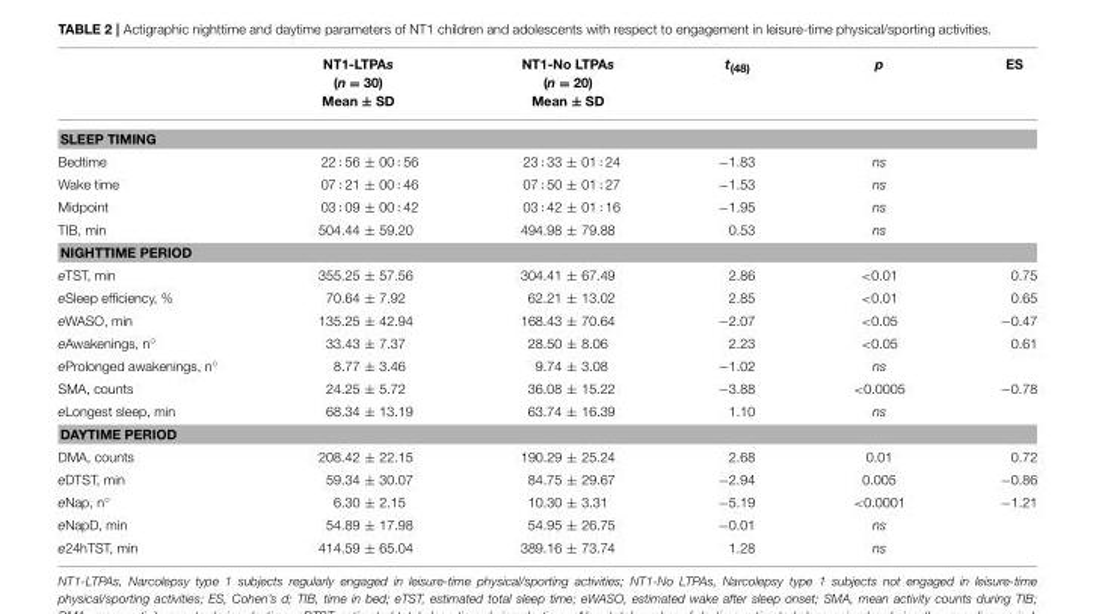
<table><thead><tr><td></td><td>NT1-LTPAs (n = 30) Mean ± SD</td><td>NT1-No LTPAs (n = 20) Mean ± SD</td><td>t<sub>(48)</sub></td><td>p</td><td>ES</td></tr></thead><tbody><tr><td colspan="6">SLEEP TIMING</td></tr><tr><td>Bedtime</td><td>22 : 56 ± 00 : 56</td><td>23 : 33 ± 01 : 24</td><td>−1.83</td><td>ns</td><td></td></tr><tr><td>Wake time</td><td>07 : 21 ± 00 : 46</td><td>07 : 50 ± 01 : 27</td><td>−1.53</td><td>ns</td><td></td></tr><tr><td>Midpoint</td><td>03 : 09 ± 00 : 42</td><td>03 : 42 ± 01 : 16</td><td>−1.95</td><td>ns</td><td></td></tr><tr><td>TIB, min</td><td>504.44 ± 59.20</td><td>494.98 ± 79.88</td><td>0.53</td><td>ns</td><td></td></tr><tr><td colspan="6">NIGHTTIME PERIOD</td></tr><tr><td>eTST, min</td><td>355.25 ± 57.56</td><td>304.41 ± 67.49</td><td>2.86</td><td>&lt;0.01</td><td>0.75</td></tr><tr><td>eSleep efficiency, %</td><td>70.64 ± 7.92</td><td>62.21 ± 13.02</td><td>2.85</td><td>&lt;0.01</td><td>0.65</td></tr><tr><td>eWASO, min</td><td>135.25 ± 42.94</td><td>168.43 ± 70.64</td><td>−2.07</td><td>&lt;0.05</td><td>−0.47</td></tr><tr><td>eAwakenings, n◦</td><td>33.43 ± 7.37</td><td>28.50 ± 8.06</td><td>2.23</td><td>&lt;0.05</td><td>0.61</td></tr><tr><td>eProlonged awakenings, n◦</td><td>8.77 ± 3.46</td><td>9.74 ± 3.08</td><td>−1.02</td><td>ns</td><td></td></tr><tr><td>SMA, counts</td><td>24.25 ± 5.72</td><td>36.08 ± 15.22</td><td>−3.88</td><td>&lt;0.0005</td><td>−0.78</td></tr><tr><td>eLongest sleep, min</td><td>68.34 ± 13.19</td><td>63.74 ± 16.39</td><td>1.10</td><td>ns</td><td></td></tr><tr><td colspan="6">DAYTIME PERIOD</td></tr><tr><td>DMA, counts</td><td>208.42 ± 22.15</td><td>190.29 ± 25.24</td><td>2.68</td><td>0.01</td><td>0.72</td></tr><tr><td>eDTST, min</td><td>59.34 ± 30.07</td><td>84.75 ± 29.67</td><td>−2.94</td><td>0.005</td><td>−0.86</td></tr><tr><td>eNap, n◦</td><td>6.30 ± 2.15</td><td>10.30 ± 3.31</td><td>−5.19</td><td>&lt;0.0001</td><td>−1.21</td></tr><tr><td>eNapD, min</td><td>54.89 ± 17.98</td><td>54.95 ± 26.75</td><td>−0.01</td><td>ns</td><td></td></tr><tr><td>e24hTST, min</td><td>414.59 ± 65.04</td><td>389.16 ± 73.74</td><td>1.28</td><td>ns</td><td></td></tr></tbody></table>